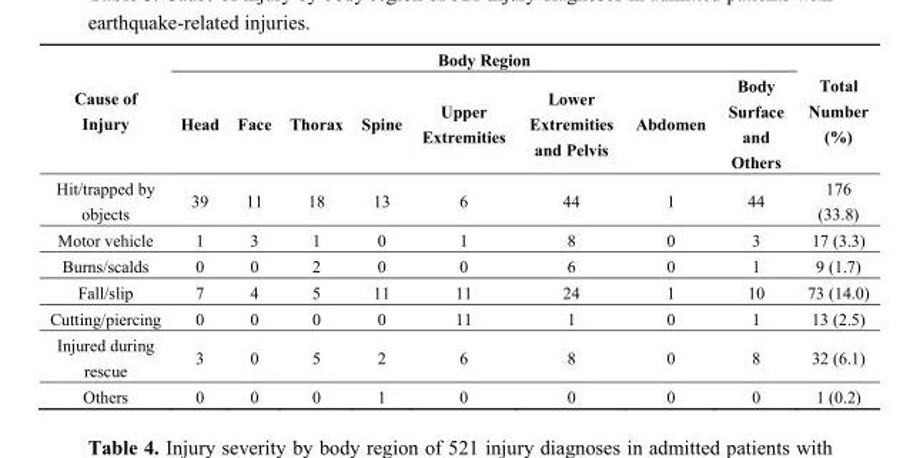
<table><thead><tr><td rowspan="2">Cause of Injury</td><td colspan="8">Body Region</td><td rowspan="2">Total Number (%)</td></tr><tr><td>Head</td><td>Face</td><td>Thorax</td><td>Spine</td><td>Upper Extremities</td><td>Lower Extremities and Pelvis</td><td>Abdomen</td><td>Body Surface and Others</td></tr></thead><tbody><tr><td>Hit/trapped by objects</td><td>39</td><td>11</td><td>18</td><td>13</td><td>6</td><td>44</td><td>1</td><td>44</td><td>176 (33.8)</td></tr><tr><td>Motor vehicle</td><td>1</td><td>3</td><td>1</td><td>0</td><td>1</td><td>8</td><td>0</td><td>3</td><td>17 (3.3)</td></tr><tr><td>Burns/scalds</td><td>0</td><td>0</td><td>2</td><td>0</td><td>0</td><td>6</td><td>0</td><td>1</td><td>9 (1.7)</td></tr><tr><td>Fall/slip</td><td>7</td><td>4</td><td>5</td><td>11</td><td>11</td><td>24</td><td>1</td><td>10</td><td>73 (14.0)</td></tr><tr><td>Cutting/piercing</td><td>0</td><td>0</td><td>0</td><td>0</td><td>11</td><td>1</td><td>0</td><td>1</td><td>13 (2.5)</td></tr><tr><td>Injured during rescue</td><td>3</td><td>0</td><td>5</td><td>2</td><td>6</td><td>8</td><td>0</td><td>8</td><td>32 (6.1)</td></tr><tr><td>Others</td><td>0</td><td>0</td><td>0</td><td>1</td><td>0</td><td>0</td><td>0</td><td>0</td><td>1 (0.2)</td></tr></tbody></table>